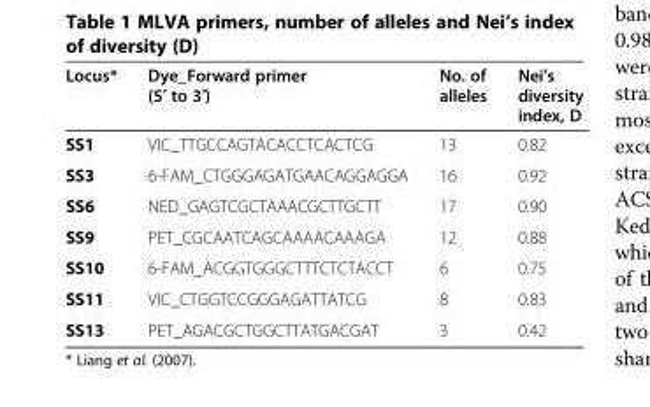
<table><thead><tr><td>Locus*</td><td>Dye_Forward primer (5′ to 3′)</td><td>No. of alleles</td><td>Nei’s diversity index, D</td></tr></thead><tbody><tr><td>SS1</td><td>VIC_TTGCCAGTACACCTCACTCG</td><td>13</td><td>0.82</td></tr><tr><td>SS3</td><td>6-FAM_CTGGGAGATGAACAGGAGGA</td><td>16</td><td>0.92</td></tr><tr><td>SS6</td><td>NED_GAGTCGCTAAACGCTTGCTT</td><td>17</td><td>0.90</td></tr><tr><td>SS9</td><td>PET_CGCAATCAGCAAAACAAAGA</td><td>12</td><td>0.88</td></tr><tr><td>SS10</td><td>6-FAM_ACGGTGGGCTTTCTCTACCT</td><td>6</td><td>0.75</td></tr><tr><td>SS11</td><td>VIC_CTGGTCCGGGAGATTATCG</td><td>8</td><td>0.83</td></tr><tr><td>SS13</td><td>PET_AGACGCTGGCTTATGACGAT</td><td>3</td><td>0.42</td></tr></tbody></table>